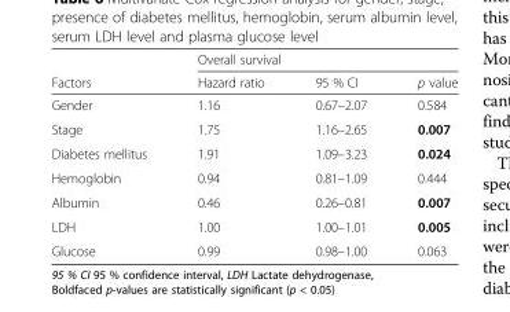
<table><thead><tr><td rowspan="2">Factors</td><td colspan="3">Overall survival</td></tr><tr><td>Hazard ratio</td><td>95 % CI</td><td>p value</td></tr></thead><tbody><tr><td>Gender</td><td>1.16</td><td>0.67–2.07</td><td>0.584</td></tr><tr><td>Stage</td><td>1.75</td><td>1.16–2.65</td><td>0.007</td></tr><tr><td>Diabetes mellitus</td><td>1.91</td><td>1.09–3.23</td><td>0.024</td></tr><tr><td>Hemoglobin</td><td>0.94</td><td>0.81–1.09</td><td>0.444</td></tr><tr><td>Albumin</td><td>0.46</td><td>0.26–0.81</td><td>0.007</td></tr><tr><td>LDH</td><td>1.00</td><td>1.00–1.01</td><td>0.005</td></tr><tr><td>Glucose</td><td>0.99</td><td>0.98–1.00</td><td>0.063</td></tr></tbody></table>